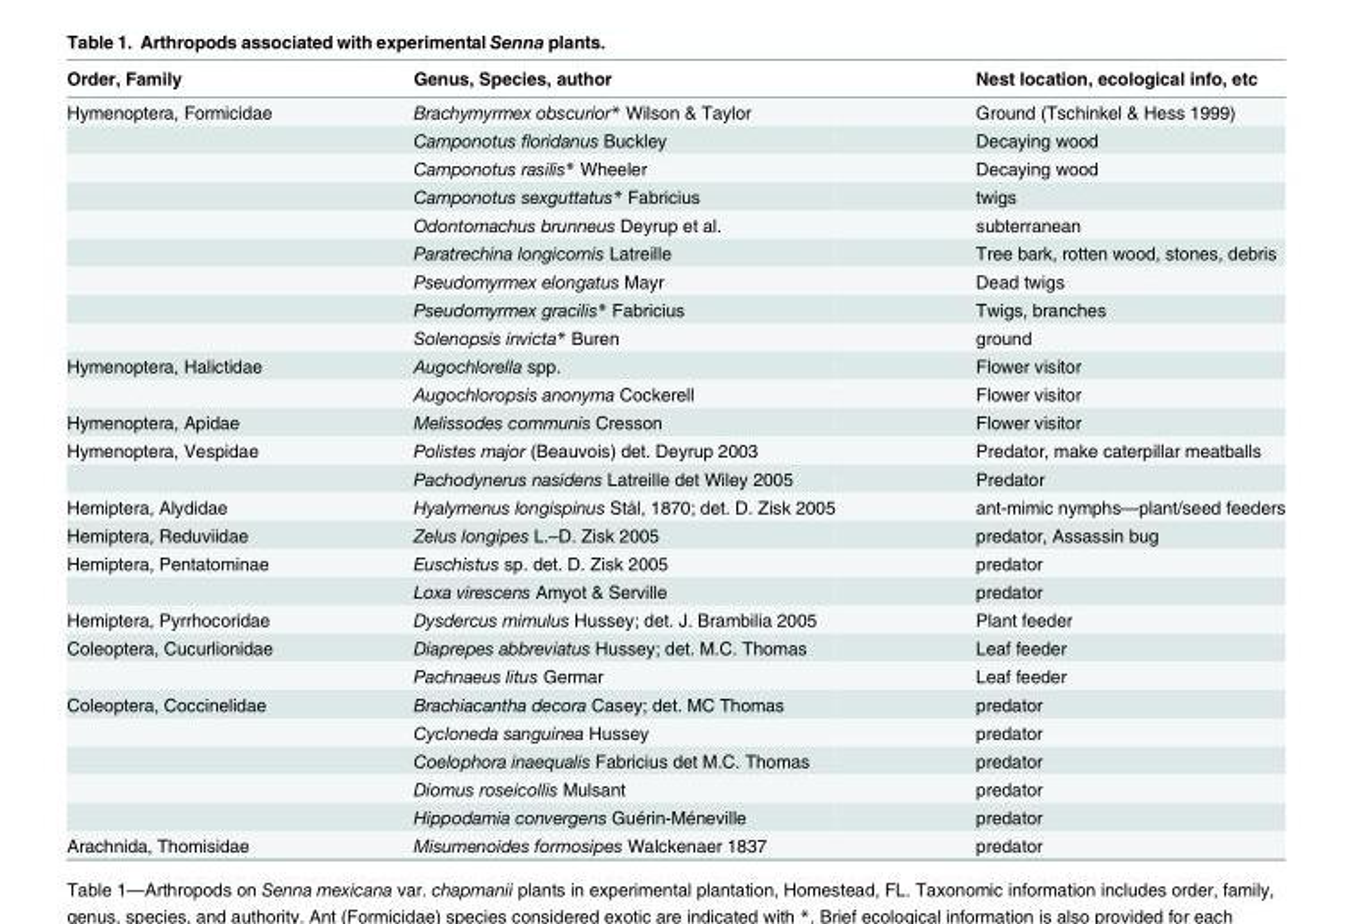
<table><thead><tr><td>Order, Family</td><td>Genus, Species, author</td><td>Nest location, ecological info, etc</td></tr></thead><tbody><tr><td rowspan="9">Hymenoptera, Formicidae</td><td>Brachymyrmex obscurior* Wilson &amp; Taylor</td><td>Ground (Tschinkel &amp; Hess 1999)</td></tr><tr><td>Camponotus floridanus Buckley</td><td>Decaying wood</td></tr><tr><td>Camponotus rasilis* Wheeler</td><td>Decaying wood</td></tr><tr><td>Camponotus sexguttatus* Fabricius</td><td>twigs</td></tr><tr><td>Odontomachus brunneus Deyrup et al.</td><td>subterranean</td></tr><tr><td>Paratrechina longicornis Latreille</td><td>Tree bark, rotten wood, stones, debris</td></tr><tr><td>Pseudomyrmex elongatus Mayr</td><td>Dead twigs</td></tr><tr><td>Pseudomyrmex gracilis* Fabricius</td><td>Twigs, branches</td></tr><tr><td>Solenopsis invicta* Buren</td><td>ground</td></tr><tr><td rowspan="2">Hymenoptera, Halictidae</td><td>Augochlorella spp.</td><td>Flower visitor</td></tr><tr><td>Augochloropsis anonyma Cockerell</td><td>Flower visitor</td></tr><tr><td>Hymenoptera, Apidae</td><td>Melissodes communis Cresson</td><td>Flower visitor</td></tr><tr><td rowspan="2">Hymenoptera, Vespidae</td><td>Polistes major (Beauvois) det. Deyrup 2003</td><td>Predator, make caterpillar meatballs</td></tr><tr><td>Pachodynerus nasidens Latreille det Wiley 2005</td><td>Predator</td></tr><tr><td>Hemiptera, Alydidae</td><td>Hyalymenus longispinus Stål, 1870; det. D. Zisk 2005</td><td>ant-mimic nymphs—plant/seed feeders</td></tr><tr><td>Hemiptera, Reduviidae</td><td>Zelus longipes L.–D. Zisk 2005</td><td>predator, Assassin bug</td></tr><tr><td rowspan="2">Hemiptera, Pentatominae</td><td>Euschistus sp. det. D. Zisk 2005</td><td>predator</td></tr><tr><td>Loxa virescens Amyot &amp; Serville</td><td>predator</td></tr><tr><td>Hemiptera, Pyrrhocoridae</td><td>Dysdercus mimulus Hussey; det. J. Brambilia 2005</td><td>Plant feeder</td></tr><tr><td rowspan="2">Coleoptera, Cucurlionidae</td><td>Diaprepes abbreviatus Hussey; det. M.C. Thomas</td><td>Leaf feeder</td></tr><tr><td>Pachnaeus litus Germar</td><td>Leaf feeder</td></tr><tr><td rowspan="5">Coleoptera, Coccinelidae</td><td>Brachiacantha decora Casey; det. MC Thomas</td><td>predator</td></tr><tr><td>Cycloneda sanguinea Hussey</td><td>predator</td></tr><tr><td>Coelophora inaequalis Fabricius det M.C. Thomas</td><td>predator</td></tr><tr><td>Diomus roseicollis Mulsant</td><td>predator</td></tr><tr><td>Hippodamia convergens Guérin-Méneville</td><td>predator</td></tr><tr><td>Arachnida, Thomisidae</td><td>Misumenoides formosipes Walckenaer 1837</td><td>predator</td></tr></tbody></table>